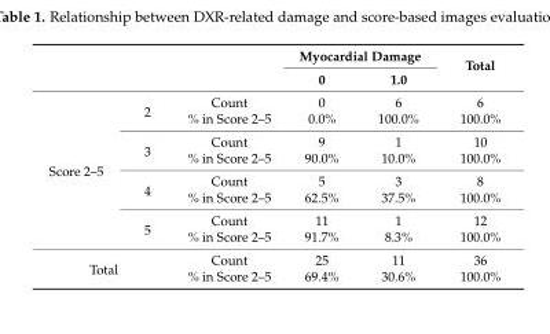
<table><thead><tr><td rowspan="2"></td><td rowspan="2"></td><td rowspan="2"></td><td colspan="2">Myocardial Damage</td><td rowspan="2">Total</td></tr><tr><td>0</td><td>1.0</td></tr></thead><tbody><tr><td rowspan="8">Score 2–5</td><td rowspan="2">2</td><td>Count</td><td>0</td><td>6</td><td>6</td></tr><tr><td>% in Score 2–5</td><td>0.0%</td><td>100.0%</td><td>100.0%</td></tr><tr><td rowspan="2">3</td><td>Count</td><td>9</td><td>1</td><td>10</td></tr><tr><td>% in Score 2–5</td><td>90.0%</td><td>10.0%</td><td>100.0%</td></tr><tr><td rowspan="2">4</td><td>Count</td><td>5</td><td>3</td><td>8</td></tr><tr><td>% in Score 2–5</td><td>62.5%</td><td>37.5%</td><td>100.0%</td></tr><tr><td rowspan="2">5</td><td>Count</td><td>11</td><td>1</td><td>12</td></tr><tr><td>% in Score 2–5</td><td>91.7%</td><td>8.3%</td><td>100.0%</td></tr><tr><td rowspan="2" colspan="2">Total</td><td>Count</td><td>25</td><td>11</td><td>36</td></tr><tr><td>% in Score 2–5</td><td>69.4%</td><td>30.6%</td><td>100.0%</td></tr></tbody></table>